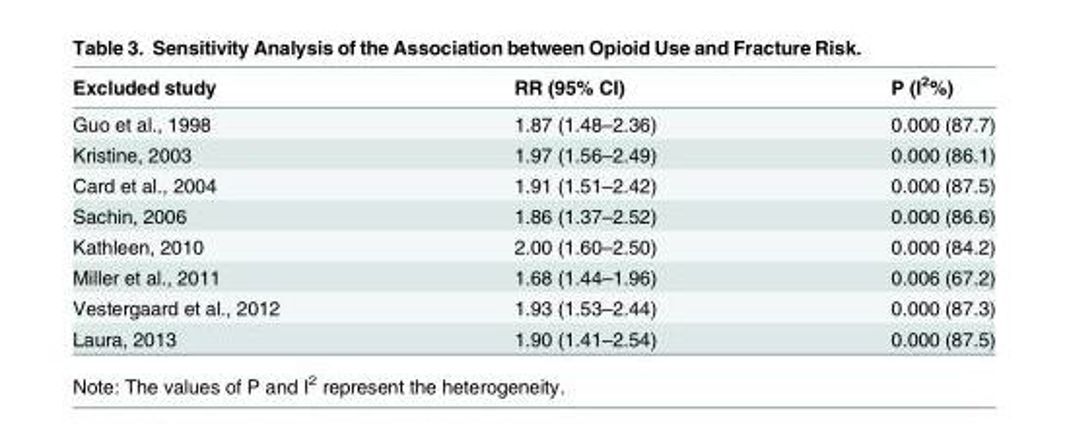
<table><thead><tr><td>Excluded study</td><td>RR (95% CI)</td><td>P (I<sup>2</sup>%)</td></tr></thead><tbody><tr><td>Guo et al., 1998</td><td>1.87 (1.48–2.36)</td><td>0.000 (87.7)</td></tr><tr><td>Kristine, 2003</td><td>1.97 (1.56–2.49)</td><td>0.000 (86.1)</td></tr><tr><td>Card et al., 2004</td><td>1.91 (1.51–2.42)</td><td>0.000 (87.5)</td></tr><tr><td>Sachin, 2006</td><td>1.86 (1.37–2.52)</td><td>0.000 (86.6)</td></tr><tr><td>Kathleen, 2010</td><td>2.00 (1.60–2.50)</td><td>0.000 (84.2)</td></tr><tr><td>Miller et al., 2011</td><td>1.68 (1.44–1.96)</td><td>0.006 (67.2)</td></tr><tr><td>Vestergaard et al., 2012</td><td>1.93 (1.53–2.44)</td><td>0.000 (87.3)</td></tr><tr><td>Laura, 2013</td><td>1.90 (1.41–2.54)</td><td>0.000 (87.5)</td></tr></tbody></table>